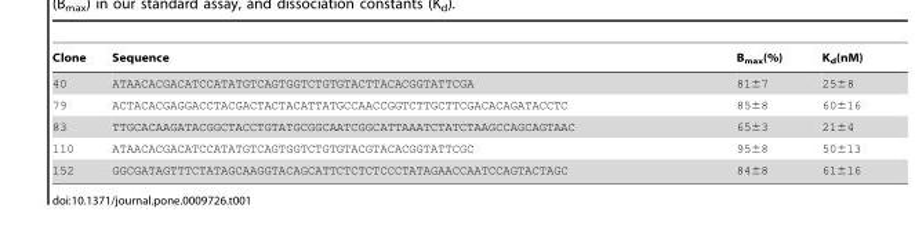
<table><thead><tr><td>Clone</td><td>Sequence</td><td>B<sub>max</sub>(%)</td><td>K<sub>d</sub>(nM)</td></tr></thead><tbody><tr><td>40</td><td>ATAACACGACATCCATATGTCAGTGGTCTGTGTACTTACACGGTATTCGA</td><td>81±7</td><td>25±8</td></tr><tr><td>79</td><td>ACTACACGAGGACCTACGACTACTACATTATGCCAACCGGTCTTGCTTCGACACAGATACCTC</td><td>85±8</td><td>60±16</td></tr><tr><td>83</td><td>TTGCACAAGATACGGCTACCTGTATGCGGCAATCGGCATTAAATCTATCTAAGCCAGCAGTAAC</td><td>65±3</td><td>21±4</td></tr><tr><td>110</td><td>ATAACACGACATCCATATGTCAGTGGTCTGTGTACGTACACGGTATTCGC</td><td>95±8</td><td>50±13</td></tr><tr><td>152</td><td>GGCGATAGTTTCTATAGCAAGGTACAGCATTCTCTCTCCCTATAGAACCAATCCAGTACTAGC</td><td>84±8</td><td>61±16</td></tr></tbody></table>